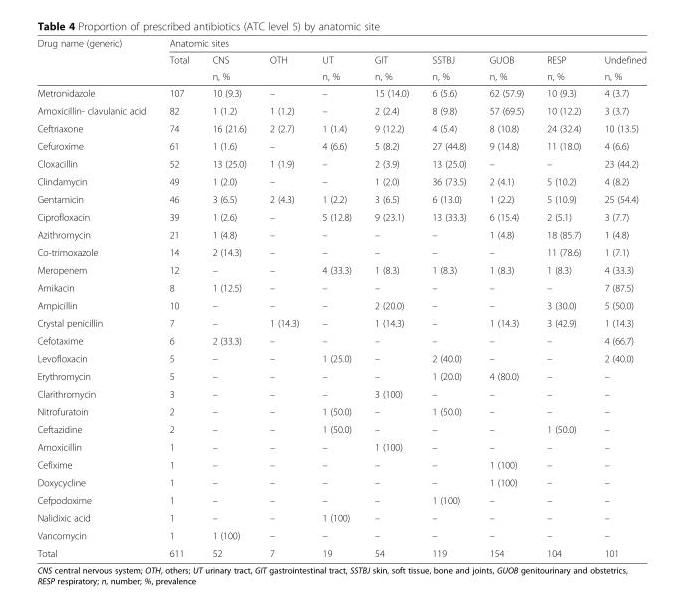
<table><thead><tr><td rowspan="3">Drug name (generic)</td><td colspan="9">Anatomic sites</td></tr><tr><td rowspan="2">Total</td><td rowspan="2">CNS n, %</td><td rowspan="2">OTH</td><td rowspan="2">UT n, %</td><td rowspan="2">GIT n, %</td><td rowspan="2">SSTBJ n, %</td><td rowspan="2">GUOB n, %</td><td rowspan="2">RESP n, %</td><td rowspan="2">Undefined n, %</td></tr><tr></tr></thead><tbody><tr><td>Metronidazole</td><td>107</td><td>10 (9.3)</td><td>–</td><td>–</td><td>15 (14.0)</td><td>6 (5.6)</td><td>62 (57.9)</td><td>10 (9.3)</td><td>4 (3.7)</td></tr><tr><td>Amoxicillin- clavulanic acid</td><td>82</td><td>1 (1.2)</td><td>1 (1.2)</td><td>–</td><td>2 (2.4)</td><td>8 (9.8)</td><td>57 (69.5)</td><td>10 (12.2)</td><td>3 (3.7)</td></tr><tr><td>Ceftriaxone</td><td>74</td><td>16 (21.6)</td><td>2 (2.7)</td><td>1 (1.4)</td><td>9 (12.2)</td><td>4 (5.4)</td><td>8 (10.8)</td><td>24 (32.4)</td><td>10 (13.5)</td></tr><tr><td>Cefuroxime</td><td>61</td><td>1 (1.6)</td><td>–</td><td>4 (6.6)</td><td>5 (8.2)</td><td>27 (44.8)</td><td>9 (14.8)</td><td>11 (18.0)</td><td>4 (6.6)</td></tr><tr><td>Cloxacillin</td><td>52</td><td>13 (25.0)</td><td>1 (1.9)</td><td>–</td><td>2 (3.9)</td><td>13 (25.0)</td><td>–</td><td>–</td><td>23 (44.2)</td></tr><tr><td>Clindamycin</td><td>49</td><td>1 (2.0)</td><td>–</td><td>–</td><td>1 (2.0)</td><td>36 (73.5)</td><td>2 (4.1)</td><td>5 (10.2)</td><td>4 (8.2)</td></tr><tr><td>Gentamicin</td><td>46</td><td>3 (6.5)</td><td>2 (4.3)</td><td>1 (2.2)</td><td>3 (6.5)</td><td>6 (13.0)</td><td>1 (2.2)</td><td>5 (10.9)</td><td>25 (54.4)</td></tr><tr><td>Ciprofloxacin</td><td>39</td><td>1 (2.6)</td><td>–</td><td>5 (12.8)</td><td>9 (23.1)</td><td>13 (33.3)</td><td>6 (15.4)</td><td>2 (5.1)</td><td>3 (7.7)</td></tr><tr><td>Azithromycin</td><td>21</td><td>1 (4.8)</td><td>–</td><td>–</td><td>–</td><td>–</td><td>1 (4.8)</td><td>18 (85.7)</td><td>1 (4.8)</td></tr><tr><td>Co-trimoxazole</td><td>14</td><td>2 (14.3)</td><td>–</td><td>–</td><td>–</td><td>–</td><td>–</td><td>11 (78.6)</td><td>1 (7.1)</td></tr><tr><td>Meropenem</td><td>12</td><td>–</td><td>–</td><td>4 (33.3)</td><td>1 (8.3)</td><td>1 (8.3)</td><td>1 (8.3)</td><td>1 (8.3)</td><td>4 (33.3)</td></tr><tr><td>Amikacin</td><td>8</td><td>1 (12.5)</td><td>–</td><td>–</td><td>–</td><td>–</td><td>–</td><td>–</td><td>7 (87.5)</td></tr><tr><td>Ampicillin</td><td>10</td><td>–</td><td>–</td><td>–</td><td>2 (20.0)</td><td>–</td><td>–</td><td>3 (30.0)</td><td>5 (50.0)</td></tr><tr><td>Crystal penicillin</td><td>7</td><td>–</td><td>1 (14.3)</td><td>–</td><td>1 (14.3)</td><td>–</td><td>1 (14.3)</td><td>3 (42.9)</td><td>1 (14.3)</td></tr><tr><td>Cefotaxime</td><td>6</td><td>2 (33.3)</td><td>–</td><td>–</td><td>–</td><td>–</td><td>–</td><td>–</td><td>4 (66.7)</td></tr><tr><td>Levofloxacin</td><td>5</td><td>–</td><td>–</td><td>1 (25.0)</td><td>–</td><td>2 (40.0)</td><td>–</td><td>–</td><td>2 (40.0)</td></tr><tr><td>Erythromycin</td><td>5</td><td>–</td><td>–</td><td>–</td><td>–</td><td>1 (20.0)</td><td>4 (80.0)</td><td>–</td><td>–</td></tr><tr><td>Clarithromycin</td><td>3</td><td>–</td><td>–</td><td>–</td><td>3 (100)</td><td>–</td><td>–</td><td>–</td><td>–</td></tr><tr><td>Nitrofuratoin</td><td>2</td><td>–</td><td>–</td><td>1 (50.0)</td><td>–</td><td>1 (50.0)</td><td>–</td><td>–</td><td>–</td></tr><tr><td>Ceftazidine</td><td>2</td><td>–</td><td>–</td><td>1 (50.0)</td><td>–</td><td>–</td><td>–</td><td>1 (50.0)</td><td>–</td></tr><tr><td>Amoxicillin</td><td>1</td><td>–</td><td>–</td><td>–</td><td>1 (100)</td><td>–</td><td>–</td><td>–</td><td>–</td></tr><tr><td>Cefixime</td><td>1</td><td>–</td><td>–</td><td>–</td><td>–</td><td>–</td><td>1 (100)</td><td>–</td><td>–</td></tr><tr><td>Doxycycline</td><td>1</td><td>–</td><td>–</td><td>–</td><td>–</td><td>–</td><td>1 (100)</td><td>–</td><td>–</td></tr><tr><td>Cefpodoxime</td><td>1</td><td>–</td><td>–</td><td>–</td><td>–</td><td>1 (100)</td><td>–</td><td>–</td><td>–</td></tr><tr><td>Nalidixic acid</td><td>1</td><td>–</td><td>–</td><td>1 (100)</td><td>–</td><td>–</td><td>–</td><td>–</td><td>–</td></tr><tr><td>Vancomycin</td><td>1</td><td>1 (100)</td><td>–</td><td>–</td><td>–</td><td>–</td><td>–</td><td>–</td><td>–</td></tr><tr><td>Total</td><td>611</td><td>52</td><td>7</td><td>19</td><td>54</td><td>119</td><td>154</td><td>104</td><td>101</td></tr></tbody></table>